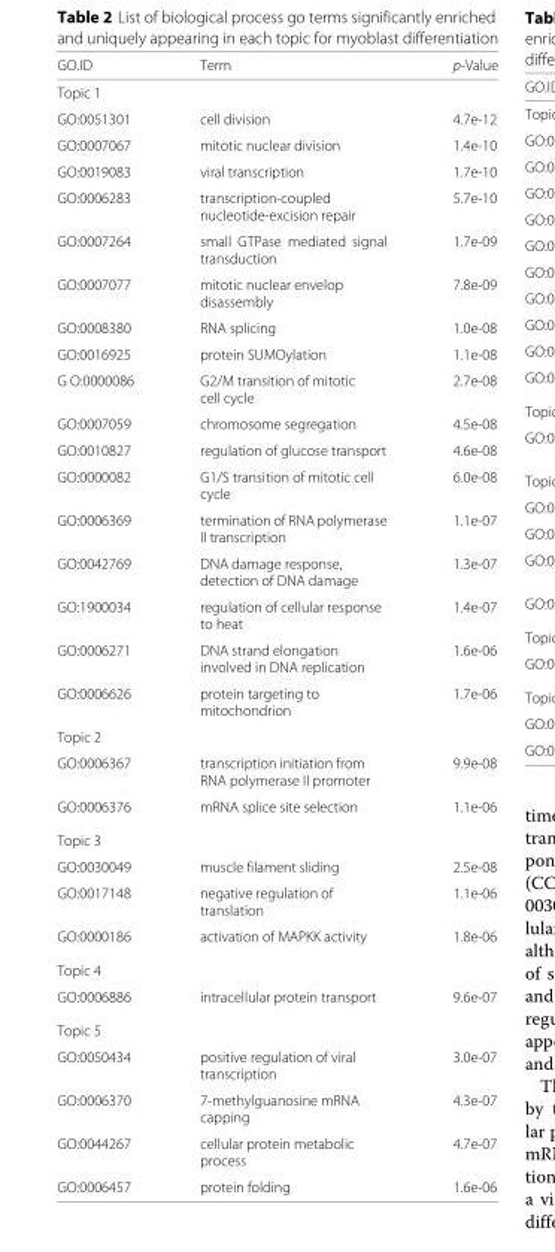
<table><thead><tr><td>GO.ID</td><td>Term</td><td>p-Value</td></tr></thead><tbody><tr><td colspan="3">Topic 1</td></tr><tr><td>GO:0051301</td><td>cell division</td><td>4.7e-12</td></tr><tr><td>GO:0007067</td><td>mitotic nuclear division</td><td>1.4e-10</td></tr><tr><td>GO:0019083</td><td>viral transcription</td><td>1.7e-10</td></tr><tr><td>GO:0006283</td><td>transcription-coupled nucleotide-excision repair</td><td>5.7e-10</td></tr><tr><td>GO:0007264</td><td>small GTPase mediated signal transduction</td><td>1.7e-09</td></tr><tr><td>GO:0007077</td><td>mitotic nuclear envelop disassembly</td><td>7.8e-09</td></tr><tr><td>GO:0008380</td><td>RNA splicing</td><td>1.0e-08</td></tr><tr><td>GO:0016925</td><td>protein SUMOylation</td><td>1.1e-08</td></tr><tr><td>G O:0000086</td><td>G2/M transition of mitotic cell cycle</td><td>2.7e-08</td></tr><tr><td>GO:0007059</td><td>chromosome segregation</td><td>4.5e-08</td></tr><tr><td>GO:0010827</td><td>regulation of glucose transport</td><td>4.6e-08</td></tr><tr><td>GO:0000082</td><td>G1/S transition of mitotic cell cycle</td><td>6.0e-08</td></tr><tr><td>GO:0006369</td><td>termination of RNA polymerase II transcription</td><td>1.1e-07</td></tr><tr><td>GO:0042769</td><td>DNA damage response, detection of DNA damage</td><td>1.3e-07</td></tr><tr><td>GO:1900034</td><td>regulation of cellular response to heat</td><td>1.4e-07</td></tr><tr><td>GO:0006271</td><td>DNA strand elongation involved in DNA replication</td><td>1.6e-06</td></tr><tr><td>GO:0006626</td><td>protein targeting to mitochondrion</td><td>1.7e-06</td></tr><tr><td colspan="3">Topic 2</td></tr><tr><td>GO:0006367</td><td>transcription initiation from RNA polymerase II promoter</td><td>9.9e-08</td></tr><tr><td>GO:0006376</td><td>mRNA splice site selection</td><td>1.1e-06</td></tr><tr><td colspan="3">Topic 3</td></tr><tr><td>GO:0030049</td><td>muscle filament sliding</td><td>2.5e-08</td></tr><tr><td>GO:0017148</td><td>negative regulation of translation</td><td>1.1e-06</td></tr><tr><td>GO:0000186</td><td>activation of MAPKK activity</td><td>1.8e-06</td></tr><tr><td colspan="3">Topic 4</td></tr><tr><td>GO:0006886</td><td>intracellular protein transport</td><td>9.6e-07</td></tr><tr><td colspan="3">Topic 5</td></tr><tr><td>GO:0050434</td><td>positive regulation of viral transcription</td><td>3.0e-07</td></tr><tr><td>GO:0006370</td><td>7-methylguanosine mRNA capping</td><td>4.3e-07</td></tr><tr><td>GO:0044267</td><td>cellular protein metabolic process</td><td>4.7e-07</td></tr><tr><td>GO:0006457</td><td>protein folding</td><td>1.6e-06</td></tr></tbody></table>